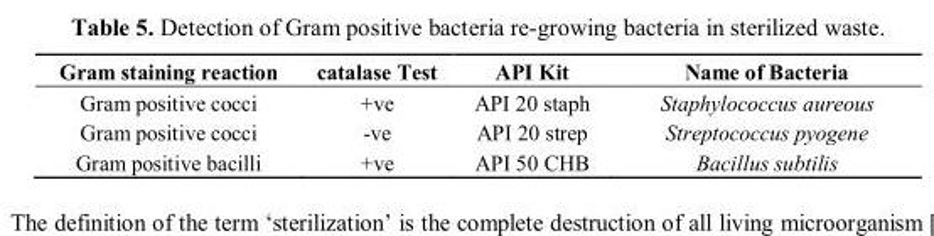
<table><thead><tr><td>Gram staining reaction</td><td>catalase Test</td><td>API Kit</td><td>Name of Bacteria</td></tr></thead><tbody><tr><td>Gram positive cocci</td><td>+ve</td><td>API 20 staph</td><td>Staphylococcus aureous</td></tr><tr><td>Gram positive cocci</td><td>-ve</td><td>API 20 strep</td><td>Streptococcus pyogene</td></tr><tr><td>Gram positive bacilli</td><td>+ve</td><td>API 50 CHB</td><td>Bacillus subtilis</td></tr></tbody></table>